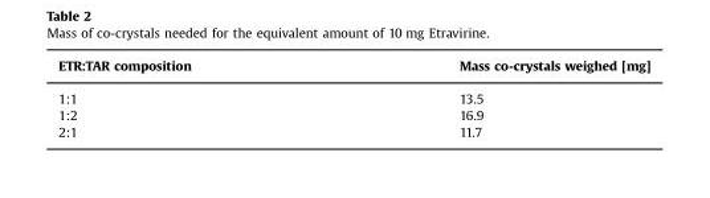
<table><thead><tr><td>ETR:TAR composition</td><td>Mass co-crystals weighed [mg]</td></tr></thead><tbody><tr><td>1:1</td><td>13.5</td></tr><tr><td>1:2</td><td>16.9</td></tr><tr><td>2:1</td><td>11.7</td></tr></tbody></table>